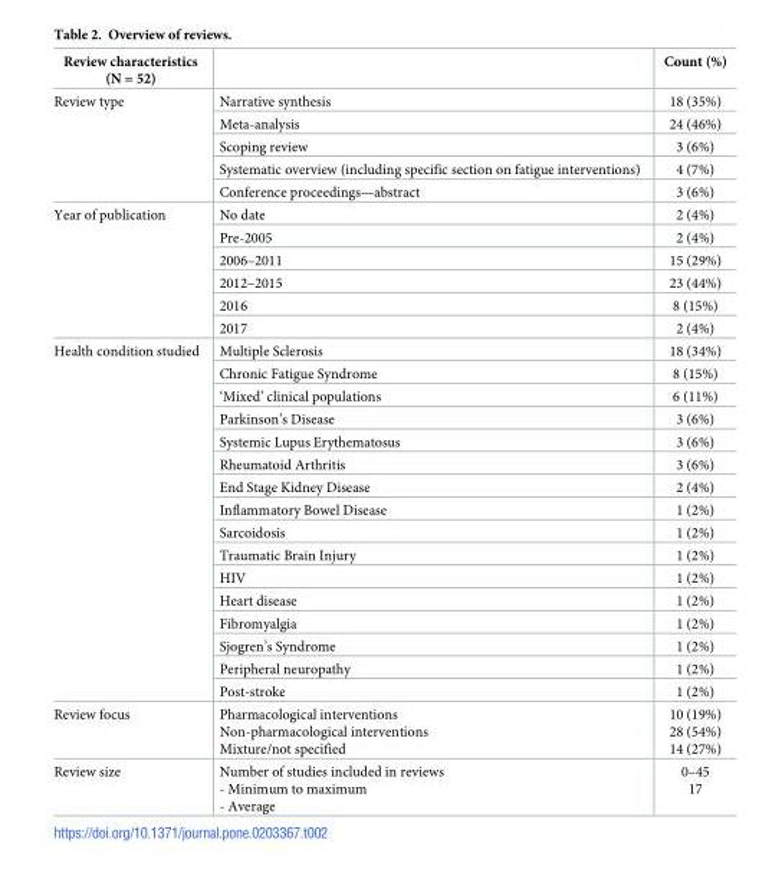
<table><thead><tr><td>Review characteristics (N = 52)</td><td></td><td>Count (%)</td></tr></thead><tbody><tr><td rowspan="5">Review type</td><td>Narrative synthesis</td><td>18 (35%)</td></tr><tr><td>Meta-analysis</td><td>24 (46%)</td></tr><tr><td>Scoping review</td><td>3 (6%)</td></tr><tr><td>Systematic overview (including specific section on fatigue interventions)</td><td>4 (7%)</td></tr><tr><td>Conference proceedings—abstract</td><td>3 (6%)</td></tr><tr><td rowspan="6">Year of publication</td><td>No date</td><td>2 (4%)</td></tr><tr><td>Pre-2005</td><td>2 (4%)</td></tr><tr><td>2006–2011</td><td>15 (29%)</td></tr><tr><td>2012–2015</td><td>23 (44%)</td></tr><tr><td>2016</td><td>8 (15%)</td></tr><tr><td>2017</td><td>2 (4%)</td></tr><tr><td rowspan="16">Health condition studied</td><td>Multiple Sclerosis</td><td>18 (34%)</td></tr><tr><td>Chronic Fatigue Syndrome</td><td>8 (15%)</td></tr><tr><td>‘Mixed’ clinical populations</td><td>6 (11%)</td></tr><tr><td>Parkinson’s Disease</td><td>3 (6%)</td></tr><tr><td>Systemic Lupus Erythematosus</td><td>3 (6%)</td></tr><tr><td>Rheumatoid Arthritis</td><td>3 (6%)</td></tr><tr><td>End Stage Kidney Disease</td><td>2 (4%)</td></tr><tr><td>Inflammatory Bowel Disease</td><td>1 (2%)</td></tr><tr><td>Sarcoidosis</td><td>1 (2%)</td></tr><tr><td>Traumatic Brain Injury</td><td>1 (2%)</td></tr><tr><td>HIV</td><td>1 (2%)</td></tr><tr><td>Heart disease</td><td>1 (2%)</td></tr><tr><td>Fibromyalgia</td><td>1 (2%)</td></tr><tr><td>Sjogren’s Syndrome</td><td>1 (2%)</td></tr><tr><td>Peripheral neuropathy</td><td>1 (2%)</td></tr><tr><td>Post-stroke</td><td>1 (2%)</td></tr><tr><td>Review focus</td><td>Pharmacological interventions Non-pharmacological interventions Mixture/not specified</td><td>10 (19%) 28 (54%) 14 (27%)</td></tr><tr><td>Review size</td><td>Number of studies included in reviews - Minimum to maximum - Average</td><td>0–45 17</td></tr></tbody></table>